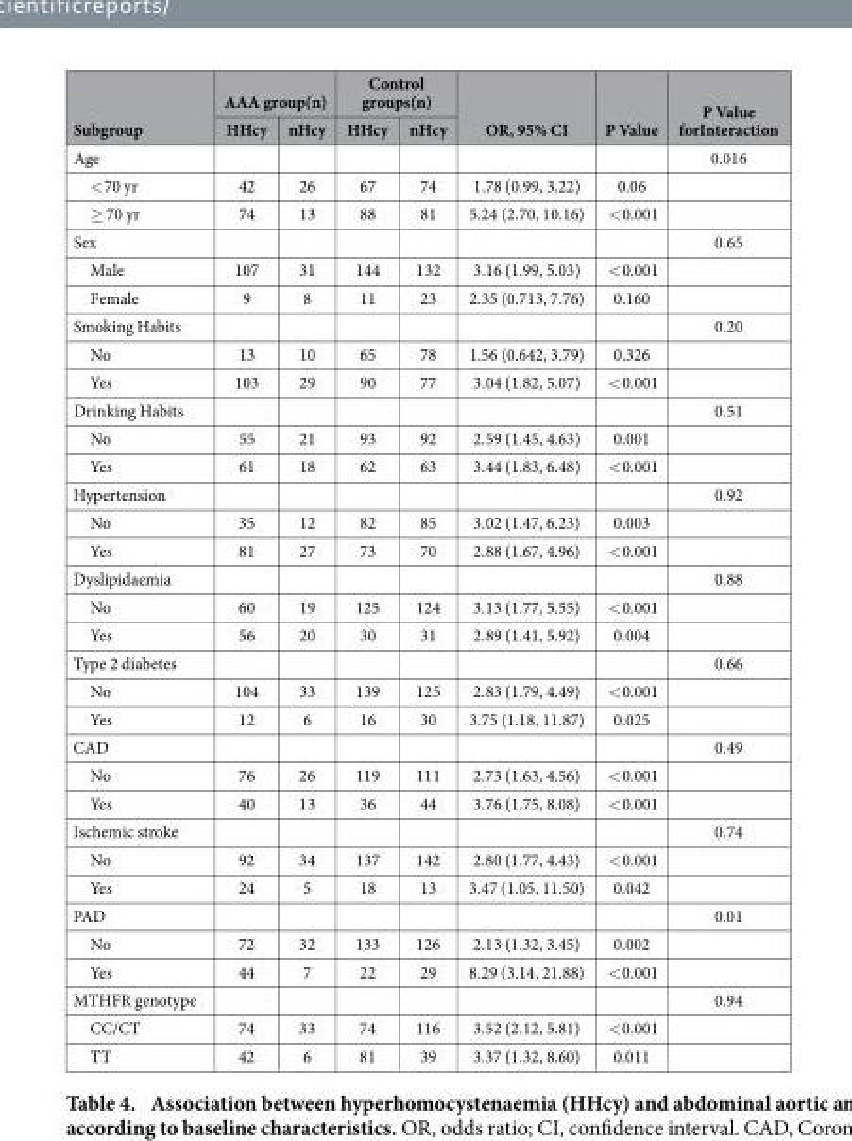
<table><thead><tr><td rowspan="2">Subgroup</td><td colspan="2">AAA group(n)</td><td colspan="2">Control groups(n)</td><td rowspan="2">OR, 95% CI</td><td rowspan="2">P Value</td><td rowspan="2">P Value forInteraction</td></tr><tr><td>HHcy</td><td>nHcy</td><td>HHcy</td><td>nHcy</td></tr></thead><tbody><tr><td>Age</td><td></td><td></td><td></td><td></td><td></td><td></td><td>0.016</td></tr><tr><td>&lt; 70 yr</td><td>42</td><td>26</td><td>67</td><td>74</td><td>1.78 (0.99, 3.22)</td><td>0.06</td><td></td></tr><tr><td>≥ 70 yr</td><td>74</td><td>13</td><td>88</td><td>81</td><td>5.24 (2.70, 10.16)</td><td>&lt; 0.001</td><td></td></tr><tr><td>Sex</td><td></td><td></td><td></td><td></td><td></td><td></td><td>0.65</td></tr><tr><td>Male</td><td>107</td><td>31</td><td>144</td><td>132</td><td>3.16 (1.99, 5.03)</td><td>&lt; 0.001</td><td></td></tr><tr><td>Female</td><td>9</td><td>8</td><td>11</td><td>23</td><td>2.35 (0.713, 7.76)</td><td>0.160</td><td></td></tr><tr><td>Smoking Habits</td><td></td><td></td><td></td><td></td><td></td><td></td><td>0.20</td></tr><tr><td>No</td><td>13</td><td>10</td><td>65</td><td>78</td><td>1.56 (0.642, 3.79)</td><td>0.326</td><td></td></tr><tr><td>Yes</td><td>103</td><td>29</td><td>90</td><td>77</td><td>3.04 (1.82, 5.07)</td><td>&lt; 0.001</td><td></td></tr><tr><td>Drinking Habits</td><td></td><td></td><td></td><td></td><td></td><td></td><td>0.51</td></tr><tr><td>No</td><td>55</td><td>21</td><td>93</td><td>92</td><td>2.59 (1.45, 4.63)</td><td>0.001</td><td></td></tr><tr><td>Yes</td><td>61</td><td>18</td><td>62</td><td>63</td><td>3.44 (1.83, 6.48)</td><td>&lt; 0.001</td><td></td></tr><tr><td>Hypertension</td><td></td><td></td><td></td><td></td><td></td><td></td><td>0.92</td></tr><tr><td>No</td><td>35</td><td>12</td><td>82</td><td>85</td><td>3.02 (1.47, 6.23)</td><td>0.003</td><td></td></tr><tr><td>Yes</td><td>81</td><td>27</td><td>73</td><td>70</td><td>2.88 (1.67, 4.96)</td><td>&lt; 0.001</td><td></td></tr><tr><td>Dyslipidaemia</td><td></td><td></td><td></td><td></td><td></td><td></td><td>0.88</td></tr><tr><td>No</td><td>60</td><td>19</td><td>125</td><td>124</td><td>3.13 (1.77, 5.55)</td><td>&lt; 0.001</td><td></td></tr><tr><td>Yes</td><td>56</td><td>20</td><td>30</td><td>31</td><td>2.89 (1.41, 5.92)</td><td>0.004</td><td></td></tr><tr><td>Type 2 diabetes</td><td></td><td></td><td></td><td></td><td></td><td></td><td>0.66</td></tr><tr><td>No</td><td>104</td><td>33</td><td>139</td><td>125</td><td>2.83 (1.79, 4.49)</td><td>&lt; 0.001</td><td></td></tr><tr><td>Yes</td><td>12</td><td>6</td><td>16</td><td>30</td><td>3.75 (1.18, 11.87)</td><td>0.025</td><td></td></tr><tr><td>CAD</td><td></td><td></td><td></td><td></td><td></td><td></td><td>0.49</td></tr><tr><td>No</td><td>76</td><td>26</td><td>119</td><td>111</td><td>2.73 (1.63, 4.56)</td><td>&lt; 0.001</td><td></td></tr><tr><td>Yes</td><td>40</td><td>13</td><td>36</td><td>44</td><td>3.76 (1.75, 8.08)</td><td>&lt; 0.001</td><td></td></tr><tr><td>Ischemic stroke</td><td></td><td></td><td></td><td></td><td></td><td></td><td>0.74</td></tr><tr><td>No</td><td>92</td><td>34</td><td>137</td><td>142</td><td>2.80 (1.77, 4.43)</td><td>&lt; 0.001</td><td></td></tr><tr><td>Yes</td><td>24</td><td>5</td><td>18</td><td>13</td><td>3.47 (1.05, 11.50)</td><td>0.042</td><td></td></tr><tr><td>PAD</td><td></td><td></td><td></td><td></td><td></td><td></td><td>0.01</td></tr><tr><td>No</td><td>72</td><td>32</td><td>133</td><td>126</td><td>2.13 (1.32, 3.45)</td><td>0.002</td><td></td></tr><tr><td>Yes</td><td>44</td><td>7</td><td>22</td><td>29</td><td>8.29 (3.14, 21.88)</td><td>&lt; 0.001</td><td></td></tr><tr><td>MTHFR genotype</td><td></td><td></td><td></td><td></td><td></td><td></td><td>0.94</td></tr><tr><td>CC/CT</td><td>74</td><td>33</td><td>74</td><td>116</td><td>3.52 (2.12, 5.81)</td><td>&lt; 0.001</td><td></td></tr><tr><td>TT</td><td>42</td><td>6</td><td>81</td><td>39</td><td>3.37 (1.32, 8.60)</td><td>0.011</td><td></td></tr></tbody></table>